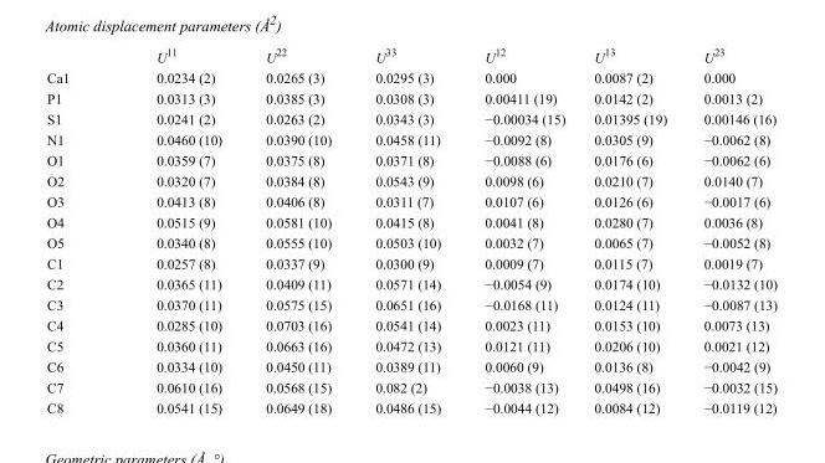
<table><thead><tr><td></td><td>U<sup>11</sup></td><td>U<sup>22</sup></td><td>U<sup>33</sup></td><td>U<sup>12</sup></td><td>U<sup>13</sup></td><td>U<sup>23</sup></td></tr></thead><tbody><tr><td>Ca1</td><td>0.0234 (2)</td><td>0.0265 (3)</td><td>0.0295 (3)</td><td>0.000</td><td>0.0087 (2)</td><td>0.000</td></tr><tr><td>P1</td><td>0.0313 (3)</td><td>0.0385 (3)</td><td>0.0308 (3)</td><td>0.00411 (19)</td><td>0.0142 (2)</td><td>0.0013 (2)</td></tr><tr><td>S1</td><td>0.0241 (2)</td><td>0.0263 (2)</td><td>0.0343 (3)</td><td>−0.00034 (15)</td><td>0.01395 (19)</td><td>0.00146 (16)</td></tr><tr><td>N1</td><td>0.0460 (10)</td><td>0.0390 (10)</td><td>0.0458 (11)</td><td>−0.0092 (8)</td><td>0.0305 (9)</td><td>−0.0062 (8)</td></tr><tr><td>O1</td><td>0.0359 (7)</td><td>0.0375 (8)</td><td>0.0371 (8)</td><td>−0.0088 (6)</td><td>0.0176 (6)</td><td>−0.0062 (6)</td></tr><tr><td>O2</td><td>0.0320 (7)</td><td>0.0384 (8)</td><td>0.0543 (9)</td><td>0.0098 (6)</td><td>0.0210 (7)</td><td>0.0140 (7)</td></tr><tr><td>O3</td><td>0.0413 (8)</td><td>0.0406 (8)</td><td>0.0311 (7)</td><td>0.0107 (6)</td><td>0.0126 (6)</td><td>−0.0017 (6)</td></tr><tr><td>O4</td><td>0.0515 (9)</td><td>0.0581 (10)</td><td>0.0415 (8)</td><td>0.0041 (8)</td><td>0.0280 (7)</td><td>0.0036 (8)</td></tr><tr><td>O5</td><td>0.0340 (8)</td><td>0.0555 (10)</td><td>0.0503 (10)</td><td>0.0032 (7)</td><td>0.0065 (7)</td><td>−0.0052 (8)</td></tr><tr><td>C1</td><td>0.0257 (8)</td><td>0.0337 (9)</td><td>0.0300 (9)</td><td>0.0009 (7)</td><td>0.0115 (7)</td><td>0.0019 (7)</td></tr><tr><td>C2</td><td>0.0365 (11)</td><td>0.0409 (11)</td><td>0.0571 (14)</td><td>−0.0054 (9)</td><td>0.0174 (10)</td><td>−0.0132 (10)</td></tr><tr><td>C3</td><td>0.0370 (11)</td><td>0.0575 (15)</td><td>0.0651 (16)</td><td>−0.0168 (11)</td><td>0.0124 (11)</td><td>−0.0087 (13)</td></tr><tr><td>C4</td><td>0.0285 (10)</td><td>0.0703 (16)</td><td>0.0541 (14)</td><td>0.0023 (11)</td><td>0.0153 (10)</td><td>0.0073 (13)</td></tr><tr><td>C5</td><td>0.0360 (11)</td><td>0.0663 (16)</td><td>0.0472 (13)</td><td>0.0121 (11)</td><td>0.0206 (10)</td><td>0.0021 (12)</td></tr><tr><td>C6</td><td>0.0334 (10)</td><td>0.0450 (11)</td><td>0.0389 (11)</td><td>0.0060 (9)</td><td>0.0136 (8)</td><td>−0.0042 (9)</td></tr><tr><td>C7</td><td>0.0610 (16)</td><td>0.0568 (15)</td><td>0.082 (2)</td><td>−0.0038 (13)</td><td>0.0498 (16)</td><td>−0.0032 (15)</td></tr><tr><td>C8</td><td>0.0541 (15)</td><td>0.0649 (18)</td><td>0.0486 (15)</td><td>−0.0044 (12)</td><td>0.0084 (12)</td><td>−0.0119 (12)</td></tr></tbody></table>